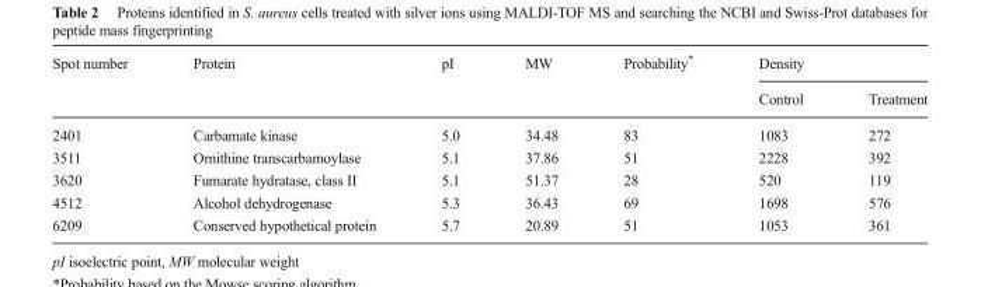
<table><thead><tr><td rowspan="2">Spot number</td><td rowspan="2">Protein</td><td rowspan="2">pI</td><td rowspan="2">MW</td><td rowspan="2">Probability*</td><td colspan="2">Density</td></tr><tr><td>Control</td><td>Treatment</td></tr></thead><tbody><tr><td>2401</td><td>Carbamate kinase</td><td>5.0</td><td>34.48</td><td>83</td><td>1083</td><td>272</td></tr><tr><td>3511</td><td>Ornithine transcarbamoylase</td><td>5.1</td><td>37.86</td><td>51</td><td>2228</td><td>392</td></tr><tr><td>3620</td><td>Fumarate hydratase, class II</td><td>5.1</td><td>51.37</td><td>28</td><td>520</td><td>119</td></tr><tr><td>4512</td><td>Alcohol dehydrogenase</td><td>5.3</td><td>36.43</td><td>69</td><td>1698</td><td>576</td></tr><tr><td>6209</td><td>Conserved hypothetical protein</td><td>5.7</td><td>20.89</td><td>51</td><td>1053</td><td>361</td></tr></tbody></table>